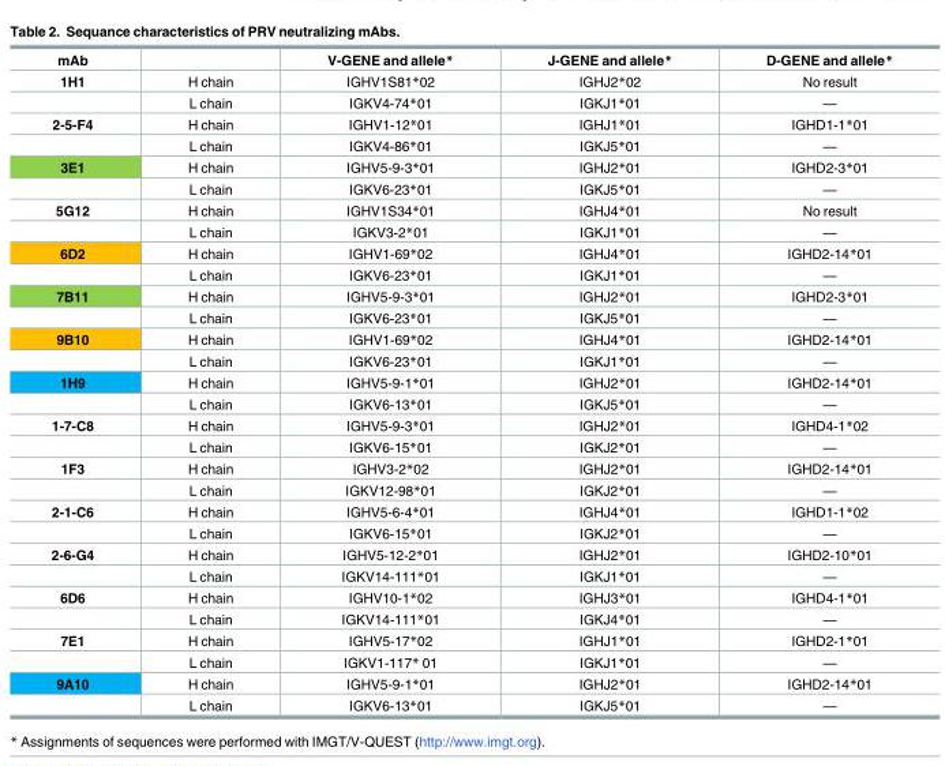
<table><thead><tr><td>mAb</td><td></td><td>V-GENE and allele*</td><td>J-GENE and allele*</td><td>D-GENE and allele*</td></tr></thead><tbody><tr><td rowspan="2">1H1</td><td>H chain</td><td>IGHV1S81*02</td><td>IGHJ2*02</td><td>No result</td></tr><tr><td>L chain</td><td>IGKV4-74*01</td><td>IGKJ1*01</td><td>—</td></tr><tr><td rowspan="2">2-5-F4</td><td>H chain</td><td>IGHV1-12*01</td><td>IGHJ1*01</td><td>IGHD1-1*01</td></tr><tr><td>L chain</td><td>IGKV4-86*01</td><td>IGKJ5*01</td><td>—</td></tr><tr><td rowspan="2">3E1</td><td>H chain</td><td>IGHV5-9-3*01</td><td>IGHJ2*01</td><td>IGHD2-3*01</td></tr><tr><td>L chain</td><td>IGKV6-23*01</td><td>IGKJ5*01</td><td>—</td></tr><tr><td rowspan="2">5G12</td><td>H chain</td><td>IGHV1S34*01</td><td>IGHJ4*01</td><td>No result</td></tr><tr><td>L chain</td><td>IGKV3-2*01</td><td>IGKJ1*01</td><td>—</td></tr><tr><td rowspan="2">6D2</td><td>H chain</td><td>IGHV1-69*02</td><td>IGHJ4*01</td><td>IGHD2-14*01</td></tr><tr><td>L chain</td><td>IGKV6-23*01</td><td>IGKJ1*01</td><td>—</td></tr><tr><td rowspan="2">7B11</td><td>H chain</td><td>IGHV5-9-3*01</td><td>IGHJ2*01</td><td>IGHD2-3*01</td></tr><tr><td>L chain</td><td>IGKV6-23*01</td><td>IGKJ5*01</td><td>—</td></tr><tr><td rowspan="2">9B10</td><td>H chain</td><td>IGHV1-69*02</td><td>IGHJ4*01</td><td>IGHD2-14*01</td></tr><tr><td>L chain</td><td>IGKV6-23*01</td><td>IGKJ1*01</td><td>—</td></tr><tr><td rowspan="2">1H9</td><td>H chain</td><td>IGHV5-9-1*01</td><td>IGHJ2*01</td><td>IGHD2-14*01</td></tr><tr><td>L chain</td><td>IGKV6-13*01</td><td>IGKJ5*01</td><td>—</td></tr><tr><td rowspan="2">1-7-C8</td><td>H chain</td><td>IGHV5-9-3*01</td><td>IGHJ2*01</td><td>IGHD4-1*02</td></tr><tr><td>L chain</td><td>IGKV6-15*01</td><td>IGKJ2*01</td><td>—</td></tr><tr><td rowspan="2">1F3</td><td>H chain</td><td>IGHV3-2*02</td><td>IGHJ2*01</td><td>IGHD2-14*01</td></tr><tr><td>L chain</td><td>IGKV12-98*01</td><td>IGKJ2*01</td><td>—</td></tr><tr><td rowspan="2">2-1-C6</td><td>H chain</td><td>IGHV5-6-4*01</td><td>IGHJ4*01</td><td>IGHD1-1*02</td></tr><tr><td>L chain</td><td>IGKV6-15*01</td><td>IGKJ2*01</td><td>—</td></tr><tr><td rowspan="2">2-6-G4</td><td>H chain</td><td>IGHV5-12-2*01</td><td>IGHJ2*01</td><td>IGHD2-10*01</td></tr><tr><td>L chain</td><td>IGKV14-111*01</td><td>IGKJ1*01</td><td>—</td></tr><tr><td rowspan="2">6D6</td><td>H chain</td><td>IGHV10-1*02</td><td>IGHJ3*01</td><td>IGHD4-1*01</td></tr><tr><td>L chain</td><td>IGKV14-111*01</td><td>IGKJ4*01</td><td>—</td></tr><tr><td rowspan="2">7E1</td><td>H chain</td><td>IGHV5-17*02</td><td>IGHJ1*01</td><td>IGHD2-1*01</td></tr><tr><td>L chain</td><td>IGKV1-117* 01</td><td>IGKJ1*01</td><td>—</td></tr><tr><td rowspan="2">9A10</td><td>H chain</td><td>IGHV5-9-1*01</td><td>IGHJ2*01</td><td>IGHD2-14*01</td></tr><tr><td>L chain</td><td>IGKV6-13*01</td><td>IGKJ5*01</td><td>—</td></tr></tbody></table>